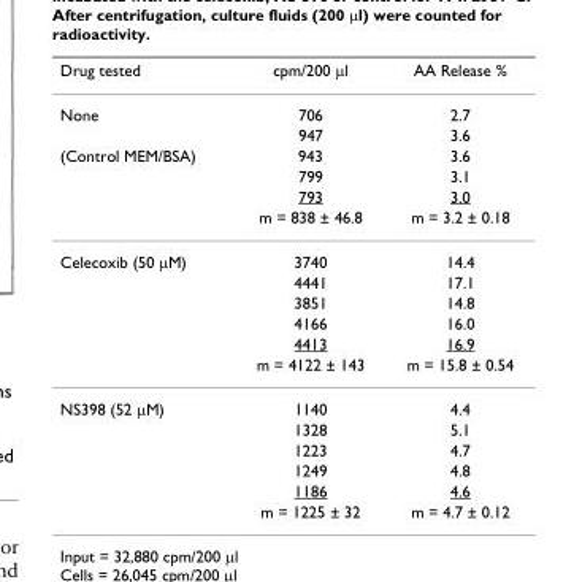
<table><thead><tr><td>Drug tested</td><td>cpm/200 µl</td><td>AA Release %</td></tr></thead><tbody><tr><td rowspan="2">None</td><td>706</td><td>2.7</td></tr><tr><td>947</td><td>3.6</td></tr><tr><td rowspan="4">(Control MEM/BSA)</td><td>943</td><td>3.6</td></tr><tr><td>799</td><td>3.1</td></tr><tr><td>793</td><td>3.0</td></tr><tr><td>m = 838 ± 46.8</td><td>m = 3.2 ± 0.18</td></tr><tr><td rowspan="6">Celecoxib (50 µM)</td><td>3740</td><td>14.4</td></tr><tr><td>4441</td><td>17.1</td></tr><tr><td>3851</td><td>14.8</td></tr><tr><td>4166</td><td>16.0</td></tr><tr><td>4413</td><td>16.9</td></tr><tr><td>m = 4122 ± 143</td><td>m = 15.8 ± 0.54</td></tr><tr><td rowspan="6">NS398 (52 µM)</td><td>1140</td><td>4.4</td></tr><tr><td>1328</td><td>5.1</td></tr><tr><td>1223</td><td>4.7</td></tr><tr><td>1249</td><td>4.8</td></tr><tr><td>1186</td><td>4.6</td></tr><tr><td>m = 1225 ± 32</td><td>m = 4.7 ± 0.12</td></tr></tbody></table>